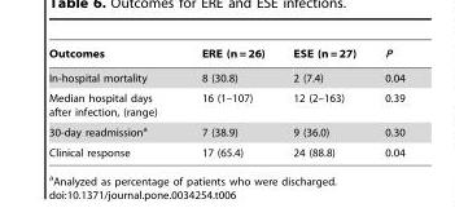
<table><thead><tr><td>Outcomes</td><td>ERE (n = 26)</td><td>ESE (n = 27)</td><td>P</td></tr></thead><tbody><tr><td>In-hospital mortality</td><td>8 (30.8)</td><td>2 (7.4)</td><td>0.04</td></tr><tr><td>Median hospital days after infection, (range)</td><td>16 (1–107)</td><td>12 (2–163)</td><td>0.39</td></tr><tr><td>30-day readmission<sup>a</sup></td><td>7 (38.9)</td><td>9 (36.0)</td><td>0.30</td></tr><tr><td>Clinical response</td><td>17 (65.4)</td><td>24 (88.8)</td><td>0.04</td></tr></tbody></table>